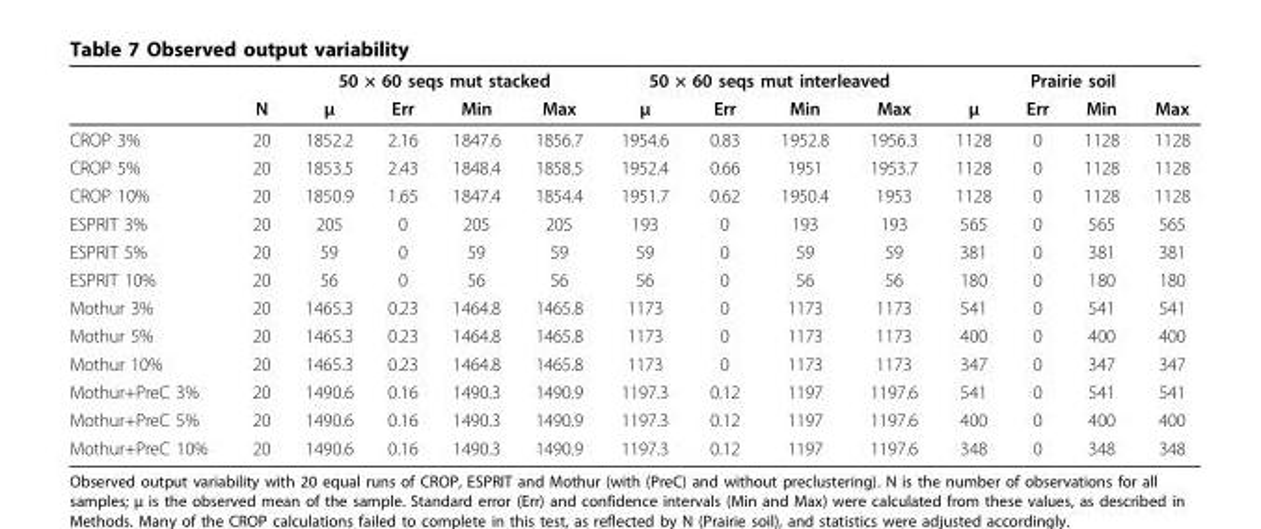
<table><thead><tr><td rowspan="2"></td><td rowspan="2">N</td><td colspan="4">50 × 60 seqs mut stacked</td><td colspan="4">50 × 60 seqs mut interleaved</td><td colspan="4">Prairie soil</td></tr><tr><td>μ</td><td>Err</td><td>Min</td><td>Max</td><td>μ</td><td>Err</td><td>Min</td><td>Max</td><td>μ</td><td>Err</td><td>Min</td><td>Max</td></tr></thead><tbody><tr><td>CROP 3%</td><td>20</td><td>1852.2</td><td>2.16</td><td>1847.6</td><td>1856.7</td><td>1954.6</td><td>0.83</td><td>1952.8</td><td>1956.3</td><td>1128</td><td>0</td><td>1128</td><td>1128</td></tr><tr><td>CROP 5%</td><td>20</td><td>1853.5</td><td>2.43</td><td>1848.4</td><td>1858.5</td><td>1952.4</td><td>0.66</td><td>1951</td><td>1953.7</td><td>1128</td><td>0</td><td>1128</td><td>1128</td></tr><tr><td>CROP 10%</td><td>20</td><td>1850.9</td><td>1.65</td><td>1847.4</td><td>1854.4</td><td>1951.7</td><td>0.62</td><td>1950.4</td><td>1953</td><td>1128</td><td>0</td><td>1128</td><td>1128</td></tr><tr><td>ESPRIT 3%</td><td>20</td><td>205</td><td>0</td><td>205</td><td>205</td><td>193</td><td>0</td><td>193</td><td>193</td><td>565</td><td>0</td><td>565</td><td>565</td></tr><tr><td>ESPRIT 5%</td><td>20</td><td>59</td><td>0</td><td>59</td><td>59</td><td>59</td><td>0</td><td>59</td><td>59</td><td>381</td><td>0</td><td>381</td><td>381</td></tr><tr><td>ESPRIT 10%</td><td>20</td><td>56</td><td>0</td><td>56</td><td>56</td><td>56</td><td>0</td><td>56</td><td>56</td><td>180</td><td>0</td><td>180</td><td>180</td></tr><tr><td>Mothur 3%</td><td>20</td><td>1465.3</td><td>0.23</td><td>1464.8</td><td>1465.8</td><td>1173</td><td>0</td><td>1173</td><td>1173</td><td>541</td><td>0</td><td>541</td><td>541</td></tr><tr><td>Mothur 5%</td><td>20</td><td>1465.3</td><td>0.23</td><td>1464.8</td><td>1465.8</td><td>1173</td><td>0</td><td>1173</td><td>1173</td><td>400</td><td>0</td><td>400</td><td>400</td></tr><tr><td>Mothur 10%</td><td>20</td><td>1465.3</td><td>0.23</td><td>1464.8</td><td>1465.8</td><td>1173</td><td>0</td><td>1173</td><td>1173</td><td>347</td><td>0</td><td>347</td><td>347</td></tr><tr><td>Mothur+PreC 3%</td><td>20</td><td>1490.6</td><td>0.16</td><td>1490.3</td><td>1490.9</td><td>1197.3</td><td>0.12</td><td>1197</td><td>1197.6</td><td>541</td><td>0</td><td>541</td><td>541</td></tr><tr><td>Mothur+PreC 5%</td><td>20</td><td>1490.6</td><td>0.16</td><td>1490.3</td><td>1490.9</td><td>1197.3</td><td>0.12</td><td>1197</td><td>1197.6</td><td>400</td><td>0</td><td>400</td><td>400</td></tr><tr><td>Mothur+PreC 10%</td><td>20</td><td>1490.6</td><td>0.16</td><td>1490.3</td><td>1490.9</td><td>1197.3</td><td>0.12</td><td>1197</td><td>1197.6</td><td>348</td><td>0</td><td>348</td><td>348</td></tr></tbody></table>